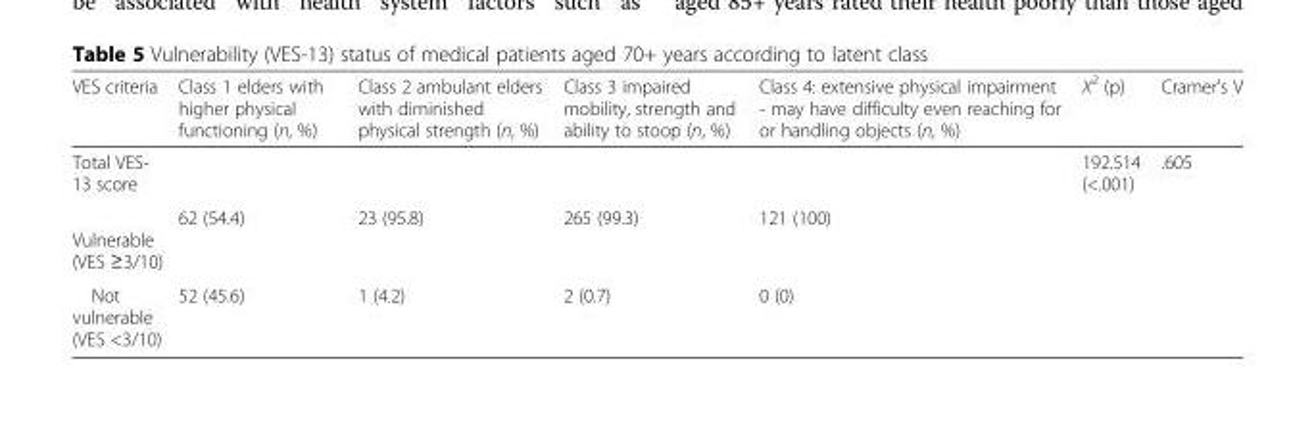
<table><thead><tr><td>VES criteria</td><td>Class 1 elders with higher physical functioning (n, %)</td><td>Class 2 ambulant elders with diminished physical strength (n, %)</td><td>Class 3 impaired mobility, strength and ability to stoop (n, %)</td><td>Class 4: extensive physical impairment - may have difficulty even reaching for or handling objects (n, %)</td><td>X<sup>2</sup> (p)</td><td>Cramer’s V</td></tr></thead><tbody><tr><td>Total VES- 13 score</td><td></td><td></td><td></td><td></td><td>192.514 (&lt;.001)</td><td>.605</td></tr><tr><td>Vulnerable (VES ≥3/10)</td><td>62 (54.4)</td><td>23 (95.8)</td><td>265 (99.3)</td><td>121 (100)</td><td></td><td></td></tr><tr><td>Not vulnerable (VES &lt;3/10)</td><td>52 (45.6)</td><td>1 (4.2)</td><td>2 (0.7)</td><td>0 (0)</td><td></td><td></td></tr></tbody></table>